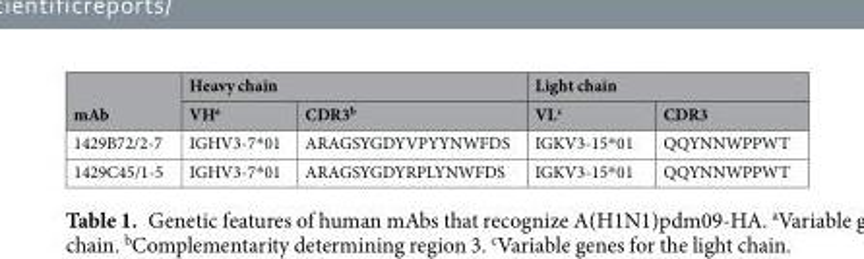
<table><thead><tr><td rowspan="2">mAb</td><td colspan="2">Heavy chain</td><td colspan="2">Light chain</td></tr><tr><td>VH<sup>a</sup></td><td>CDR3<sup>b</sup></td><td>VL<sup>c</sup></td><td>CDR3</td></tr></thead><tbody><tr><td>1429B72/2-7</td><td>IGHV3-7*01</td><td>ARAGSYGDYVPYYNWFDS</td><td>IGKV3-15*01</td><td>QQYNNWPPWT</td></tr><tr><td>1429C45/1-5</td><td>IGHV3-7*01</td><td>ARAGSYGDYRPLYNWFDS</td><td>IGKV3-15*01</td><td>QQYNNWPPWT</td></tr></tbody></table>